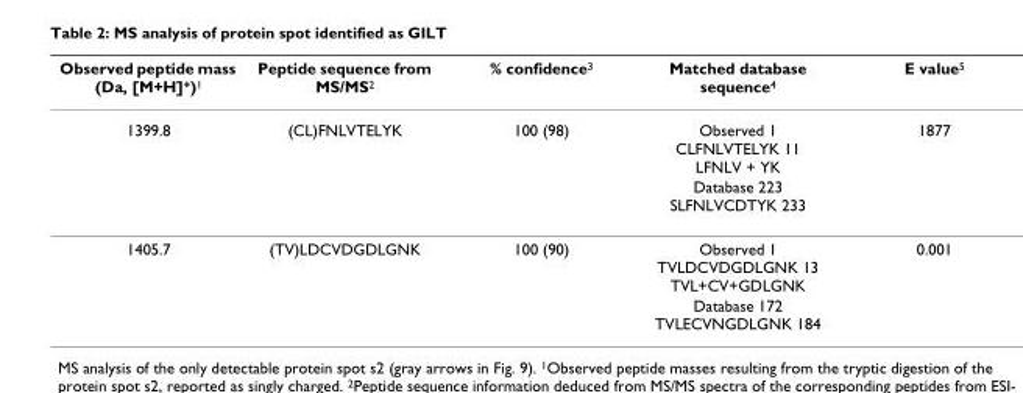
<table><thead><tr><td>Observed peptide mass (Da, [M+H]<sup>+</sup>)<sup>1</sup></td><td>Peptide sequence from MS/MS<sup>2</sup></td><td>% confidence<sup>3</sup></td><td>Matched database sequence<sup>4</sup></td><td>E value<sup>5</sup></td></tr></thead><tbody><tr><td rowspan="2">1399.8</td><td>(CL)FNLVTELYK</td><td>100 (98)</td><td>Observed 1 CLFNLVTELYK 11 LFNLV + YK</td><td>1877</td></tr><tr><td></td><td></td><td>Database 223 SLFNLVCDTYK 233</td><td></td></tr><tr><td rowspan="2">1405.7</td><td>(TV)LDCVDGDLGNK</td><td>100 (90)</td><td>Observed 1 TVLDCVDGDLGNK 13 TVL+CV+GDLGNK</td><td>0.001</td></tr><tr><td></td><td></td><td>Database 172 TVLECVNGDLGNK 184</td><td></td></tr></tbody></table>